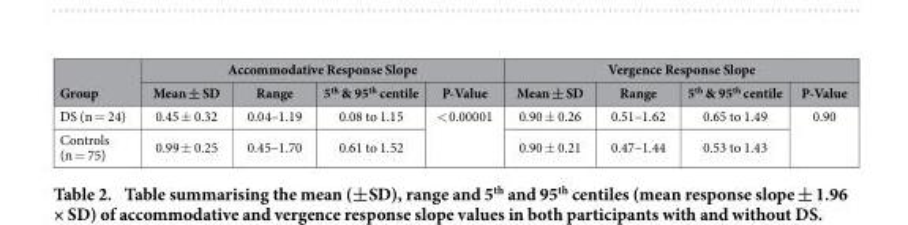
<table><thead><tr><td rowspan="2">Group</td><td colspan="4">Accommodative Response Slope</td><td colspan="4">Vergence Response Slope</td></tr><tr><td>Mean ± SD</td><td>Range</td><td>5<sup>th</sup> &amp; 95<sup>th</sup> centile</td><td>P-Value</td><td>Mean ± SD</td><td>Range</td><td>5<sup>th</sup> &amp; 95<sup>th</sup> centile</td><td>P-Value</td></tr></thead><tbody><tr><td>DS (n = 24)</td><td>0.45 ± 0.32</td><td>0.04–1.19</td><td>0.08 to 1.15</td><td rowspan="2">&lt; 0.00001</td><td>0.90 ± 0.26</td><td>0.51–1.62</td><td>0.65 to 1.49</td><td rowspan="2">0.90</td></tr><tr><td>Controls (n = 75)</td><td>0.99 ± 0.25</td><td>0.45–1.70</td><td>0.61 to 1.52</td><td>0.90 ± 0.21</td><td>0.47–1.44</td><td>0.53 to 1.43</td></tr></tbody></table>